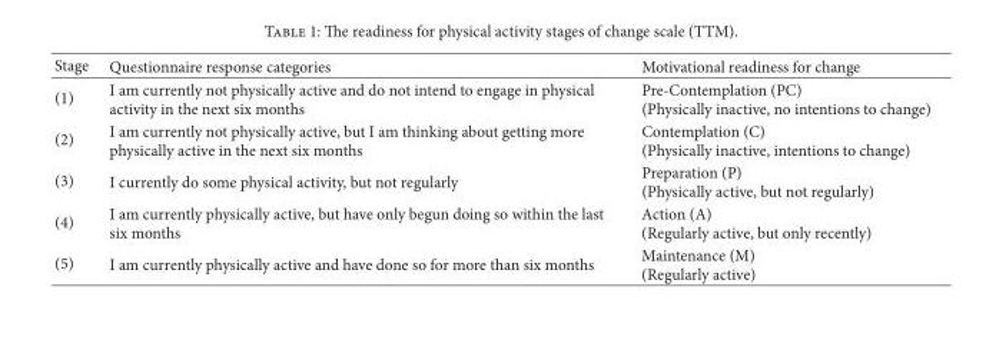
<table><thead><tr><td>Stage</td><td>Questionnaire response categories</td><td>Motivational readiness for change</td></tr></thead><tbody><tr><td>(1)</td><td>I am currently not physically active and do not intend to engage in physical activity in the next six months</td><td>Pre-Contemplation (PC) (Physically inactive, no intentions to change)</td></tr><tr><td>(2)</td><td>I am currently not physically active, but I am thinking about getting more physically active in the next six months</td><td>Contemplation (C) (Physically inactive, intentions to change)</td></tr><tr><td>(3)</td><td>I currently do some physical activity, but not regularly</td><td>Preparation (P) (Physically active, but not regularly)</td></tr><tr><td>(4)</td><td>I am currently physically active, but have only begun doing so within the last six months</td><td>Action (A) (Regularly active, but only recently)</td></tr><tr><td>(5)</td><td>I am currently physically active and have done so for more than six months</td><td>Maintenance (M) (Regularly active)</td></tr></tbody></table>